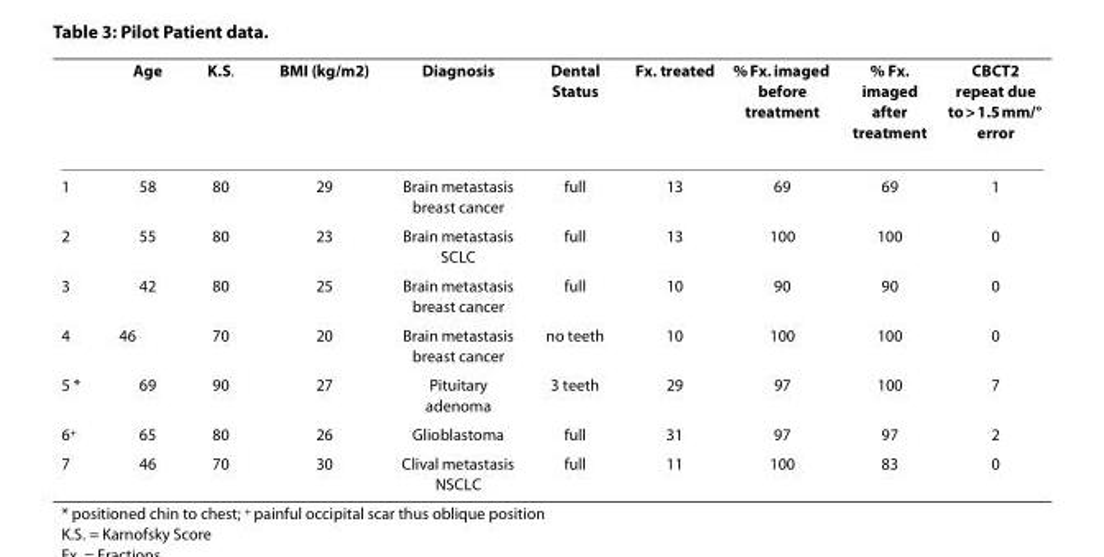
<table><thead><tr><td></td><td>Age</td><td>K.S.</td><td>BMI (kg/m<sup>2</sup>)</td><td>Diagnosis</td><td>Dental Status</td><td>Fx. treated</td><td>% Fx. imaged before treatment</td><td>% Fx. imaged after treatment</td><td>CBCT2 repeat due to &gt; 1.5 mm/° error</td></tr></thead><tbody><tr><td>1</td><td>58</td><td>80</td><td>29</td><td>Brain metastasis breast cancer</td><td>full</td><td>13</td><td>69</td><td>69</td><td>1</td></tr><tr><td>2</td><td>55</td><td>80</td><td>23</td><td>Brain metastasis SCLC</td><td>full</td><td>13</td><td>100</td><td>100</td><td>0</td></tr><tr><td>3</td><td>42</td><td>80</td><td>25</td><td>Brain metastasis breast cancer</td><td>full</td><td>10</td><td>90</td><td>90</td><td>0</td></tr><tr><td>4</td><td>46</td><td>70</td><td>20</td><td>Brain metastasis breast cancer</td><td>no teeth</td><td>10</td><td>100</td><td>100</td><td>0</td></tr><tr><td>5 *</td><td>69</td><td>90</td><td>27</td><td>Pituitary adenoma</td><td>3 teeth</td><td>29</td><td>97</td><td>100</td><td>7</td></tr><tr><td>6<sup>+</sup></td><td>65</td><td>80</td><td>26</td><td>Glioblastoma</td><td>full</td><td>31</td><td>97</td><td>97</td><td>2</td></tr><tr><td>7</td><td>46</td><td>70</td><td>30</td><td>Clival metastasis NSCLC</td><td>full</td><td>11</td><td>100</td><td>83</td><td>0</td></tr></tbody></table>